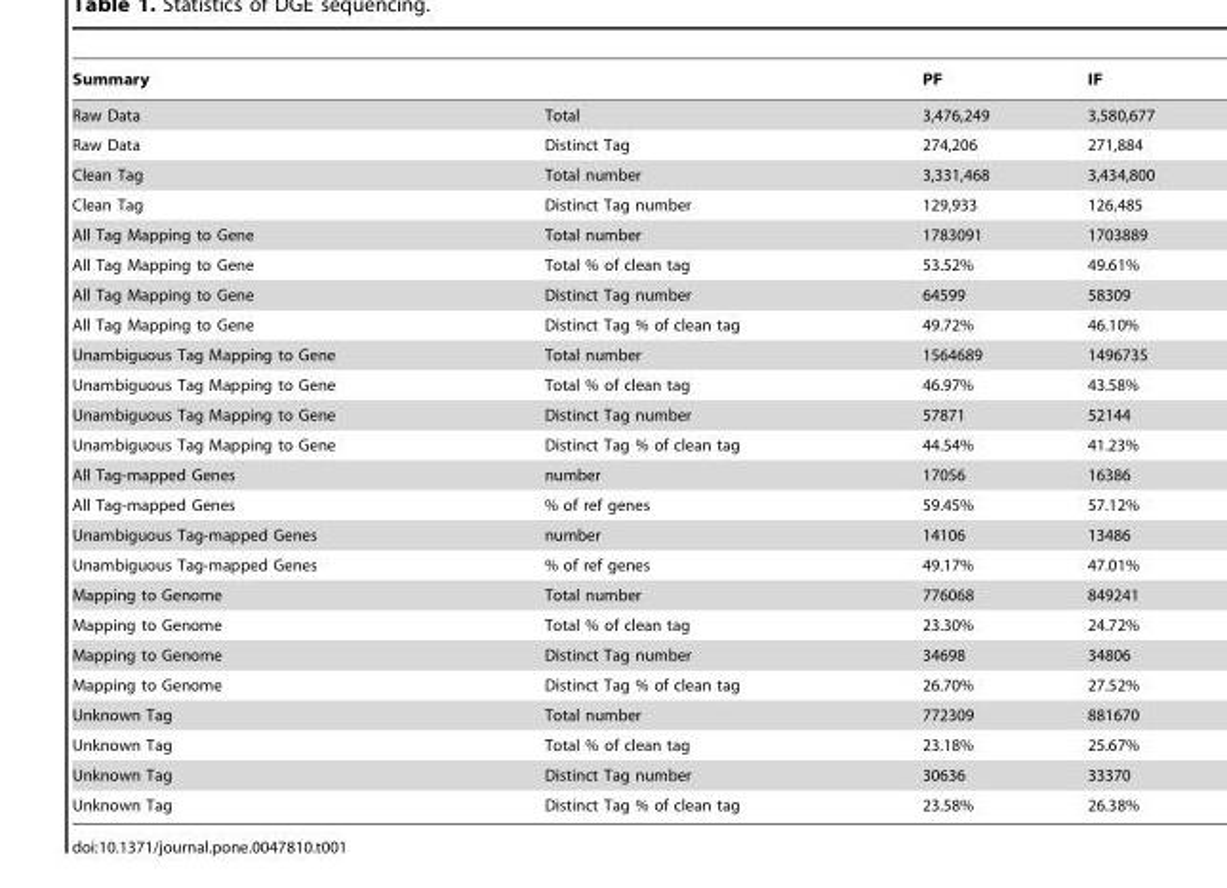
<table><thead><tr><td>Summary</td><td></td><td>PF</td><td>IF</td></tr></thead><tbody><tr><td>Raw Data</td><td>Total</td><td>3,476,249</td><td>3,580,677</td></tr><tr><td>Raw Data</td><td>Distinct Tag</td><td>274,206</td><td>271,884</td></tr><tr><td>Clean Tag</td><td>Total number</td><td>3,331,468</td><td>3,434,800</td></tr><tr><td>Clean Tag</td><td>Distinct Tag number</td><td>129,933</td><td>126,485</td></tr><tr><td>All Tag Mapping to Gene</td><td>Total number</td><td>1783091</td><td>1703889</td></tr><tr><td>All Tag Mapping to Gene</td><td>Total % of clean tag</td><td>53.52%</td><td>49.61%</td></tr><tr><td>All Tag Mapping to Gene</td><td>Distinct Tag number</td><td>64599</td><td>58309</td></tr><tr><td>All Tag Mapping to Gene</td><td>Distinct Tag % of clean tag</td><td>49.72%</td><td>46.10%</td></tr><tr><td>Unambiguous Tag Mapping to Gene</td><td>Total number</td><td>1564689</td><td>1496735</td></tr><tr><td>Unambiguous Tag Mapping to Gene</td><td>Total % of clean tag</td><td>46.97%</td><td>43.58%</td></tr><tr><td>Unambiguous Tag Mapping to Gene</td><td>Distinct Tag number</td><td>57871</td><td>52144</td></tr><tr><td>Unambiguous Tag Mapping to Gene</td><td>Distinct Tag % of clean tag</td><td>44.54%</td><td>41.23%</td></tr><tr><td>All Tag-mapped Genes</td><td>number</td><td>17056</td><td>16386</td></tr><tr><td>All Tag-mapped Genes</td><td>% of ref genes</td><td>59.45%</td><td>57.12%</td></tr><tr><td>Unambiguous Tag-mapped Genes</td><td>number</td><td>14106</td><td>13486</td></tr><tr><td>Unambiguous Tag-mapped Genes</td><td>% of ref genes</td><td>49.17%</td><td>47.01%</td></tr><tr><td>Mapping to Genome</td><td>Total number</td><td>776068</td><td>849241</td></tr><tr><td>Mapping to Genome</td><td>Total % of clean tag</td><td>23.30%</td><td>24.72%</td></tr><tr><td>Mapping to Genome</td><td>Distinct Tag number</td><td>34698</td><td>34806</td></tr><tr><td>Mapping to Genome</td><td>Distinct Tag % of clean tag</td><td>26.70%</td><td>27.52%</td></tr><tr><td>Unknown Tag</td><td>Total number</td><td>772309</td><td>881670</td></tr><tr><td>Unknown Tag</td><td>Total % of clean tag</td><td>23.18%</td><td>25.67%</td></tr><tr><td>Unknown Tag</td><td>Distinct Tag number</td><td>30636</td><td>33370</td></tr><tr><td>Unknown Tag</td><td>Distinct Tag % of clean tag</td><td>23.58%</td><td>26.38%</td></tr></tbody></table>